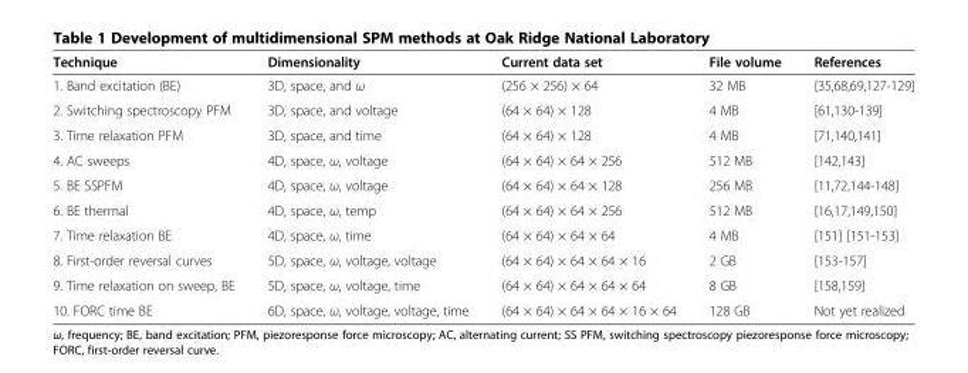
<table><thead><tr><td>Technique</td><td>Dimensionality</td><td>Current data set</td><td>File volume</td><td>References</td></tr></thead><tbody><tr><td>1. Band excitation (BE)</td><td>3D, space, and ω</td><td>(256 × 256) × 64</td><td>32 MB</td><td>[35,68,69,127-129]</td></tr><tr><td>2. Switching spectroscopy PFM</td><td>3D, space, and voltage</td><td>(64 × 64) × 128</td><td>4 MB</td><td>[61,130-139]</td></tr><tr><td>3. Time relaxation PFM</td><td>3D, space, and time</td><td>(64 × 64) × 128</td><td>4 MB</td><td>[71,140,141]</td></tr><tr><td>4. AC sweeps</td><td>4D, space, ω, voltage</td><td>(64 × 64) × 64 × 256</td><td>512 MB</td><td>[142,143]</td></tr><tr><td>5. BE SSPFM</td><td>4D, space, ω, voltage</td><td>(64 × 64) × 64 × 128</td><td>256 MB</td><td>[11,72,144-148]</td></tr><tr><td>6. BE thermal</td><td>4D, space, ω, temp</td><td>(64 × 64) × 64 × 256</td><td>512 MB</td><td>[16,17,149,150]</td></tr><tr><td>7. Time relaxation BE</td><td>4D, space, ω, time</td><td>(64 × 64) × 64 × 64</td><td>4 MB</td><td>[151] [151-153]</td></tr><tr><td>8. First-order reversal curves</td><td>5D, space, ω, voltage, voltage</td><td>(64 × 64) × 64 × 64 × 16</td><td>2 GB</td><td>[153-157]</td></tr><tr><td>9. Time relaxation on sweep, BE</td><td>5D, space, ω, voltage, time</td><td>(64 × 64) × 64 × 64 × 64</td><td>8 GB</td><td>[158,159]</td></tr><tr><td>10. FORC time BE</td><td>6D, space, ω, voltage, voltage, time</td><td>(64 × 64) × 64 × 64 × 16 × 64</td><td>128 GB</td><td>Not yet realized</td></tr></tbody></table>